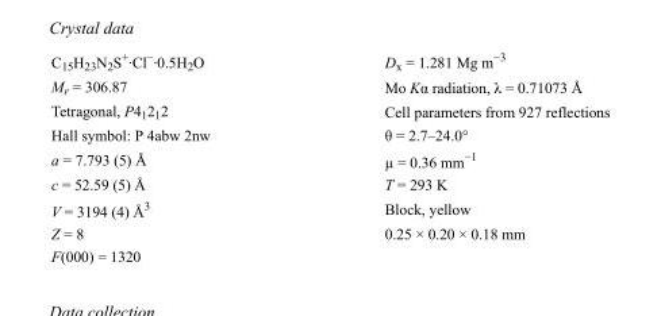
<table><tbody><tr><td>C<sub>15</sub>H<sub>23</sub>N<sub>2</sub>S<sup>+</sup>·Cl<sup>−</sup>·0.5H<sub>2</sub>O</td><td>D<sub>x</sub> = 1.281 Mg m<sup>−3</sup></td></tr><tr><td>M<sub>r</sub> = 306.87</td><td>Mo Kα radiation, λ = 0.71073 Å</td></tr><tr><td>Tetragonal, P4<sub>1</sub>2<sub>1</sub>2</td><td>Cell parameters from 927 reflections</td></tr><tr><td>Hall symbol: P 4abw 2nw</td><td>θ = 2.7–24.0°</td></tr><tr><td>a = 7.793 (5) Å</td><td>µ = 0.36 mm<sup>−1</sup></td></tr><tr><td>c = 52.59 (5) Å</td><td>T = 293 K</td></tr><tr><td>V = 3194 (4) Å<sup>3</sup></td><td>Block, yellow</td></tr><tr><td>Z = 8</td><td>0.25 × 0.20 × 0.18 mm</td></tr><tr><td>F(000) = 1320</td><td></td></tr></tbody></table>